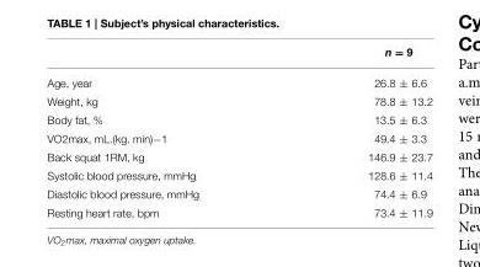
<table><thead><tr><td></td><td>n = 9</td></tr></thead><tbody><tr><td>Age, year</td><td>26.8 ± 6.6</td></tr><tr><td>Weight, kg</td><td>78.8 ± 13.2</td></tr><tr><td>Body fat, %</td><td>13.5 ± 6.3</td></tr><tr><td>VO2max, mL.(kg. min)−1</td><td>49.4 ± 3.3</td></tr><tr><td>Back squat 1RM, kg</td><td>146.9 ± 23.7</td></tr><tr><td>Systolic blood pressure, mmHg</td><td>128.6 ± 11.4</td></tr><tr><td>Diastolic blood pressure, mmHg</td><td>74.4 ± 6.9</td></tr><tr><td>Resting heart rate, bpm</td><td>73.4 ± 11.9</td></tr></tbody></table>